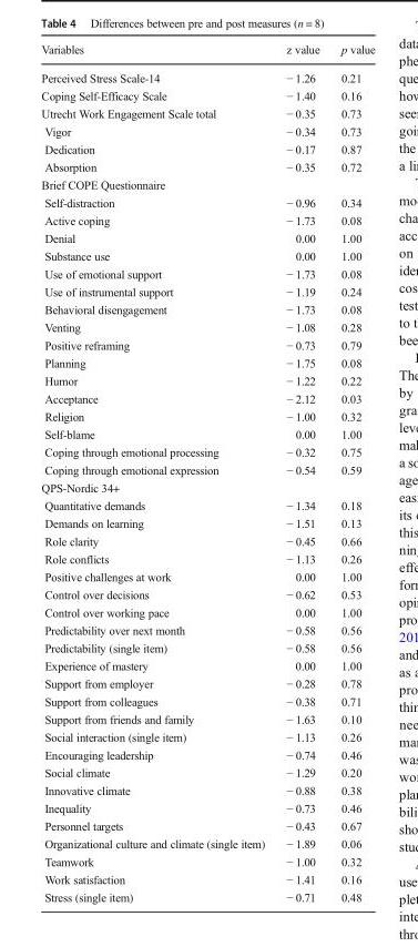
<table><thead><tr><td>Variables</td><td>z value</td><td>p value</td></tr></thead><tbody><tr><td>Perceived Stress Scale-14</td><td>− 1.26</td><td>0.21</td></tr><tr><td>Coping Self-Efficacy Scale</td><td>− 1.40</td><td>0.16</td></tr><tr><td>Utrecht Work Engagement Scale total</td><td>− 0.35</td><td>0.73</td></tr><tr><td>Vigor</td><td>− 0.34</td><td>0.73</td></tr><tr><td>Dedication</td><td>− 0.17</td><td>0.87</td></tr><tr><td>Absorption</td><td>− 0.35</td><td>0.72</td></tr><tr><td colspan="3">Brief COPE Questionnaire</td></tr><tr><td>Self-distraction</td><td>− 0.96</td><td>0.34</td></tr><tr><td>Active coping</td><td>− 1.73</td><td>0.08</td></tr><tr><td>Denial</td><td>0.00</td><td>1.00</td></tr><tr><td>Substance use</td><td>0.00</td><td>1.00</td></tr><tr><td>Use of emotional support</td><td>− 1.73</td><td>0.08</td></tr><tr><td>Use of instrumental support</td><td>− 1.19</td><td>0.24</td></tr><tr><td>Behavioral disengagement</td><td>− 1.73</td><td>0.08</td></tr><tr><td>Venting</td><td>− 1.08</td><td>0.28</td></tr><tr><td>Positive reframing</td><td>− 0.73</td><td>0.79</td></tr><tr><td>Planning</td><td>− 1.75</td><td>0.08</td></tr><tr><td>Humor</td><td>− 1.22</td><td>0.22</td></tr><tr><td>Acceptance</td><td>− 2.12</td><td>0.03</td></tr><tr><td>Religion</td><td>− 1.00</td><td>0.32</td></tr><tr><td>Self-blame</td><td>0.00</td><td>1.00</td></tr><tr><td>Coping through emotional processing</td><td>− 0.32</td><td>0.75</td></tr><tr><td>Coping through emotional expression</td><td>− 0.54</td><td>0.59</td></tr><tr><td colspan="3">QPS-Nordic 34+</td></tr><tr><td>Quantitative demands</td><td>− 1.34</td><td>0.18</td></tr><tr><td>Demands on learning</td><td>− 1.51</td><td>0.13</td></tr><tr><td>Role clarity</td><td>− 0.45</td><td>0.66</td></tr><tr><td>Role conflicts</td><td>− 1.13</td><td>0.26</td></tr><tr><td>Positive challenges at work</td><td>0.00</td><td>1.00</td></tr><tr><td>Control over decisions</td><td>− 0.62</td><td>0.53</td></tr><tr><td>Control over working pace</td><td>0.00</td><td>1.00</td></tr><tr><td>Predictability over next month</td><td>− 0.58</td><td>0.56</td></tr><tr><td>Predictability (single item)</td><td>− 0.58</td><td>0.56</td></tr><tr><td>Experience of mastery</td><td>0.00</td><td>1.00</td></tr><tr><td>Support from employer</td><td>− 0.28</td><td>0.78</td></tr><tr><td>Support from colleagues</td><td>− 0.38</td><td>0.71</td></tr><tr><td>Support from friends and family</td><td>− 1.63</td><td>0.10</td></tr><tr><td>Social interaction (single item)</td><td>− 1.13</td><td>0.26</td></tr><tr><td>Encouraging leadership</td><td>− 0.74</td><td>0.46</td></tr><tr><td>Social climate</td><td>− 1.29</td><td>0.20</td></tr><tr><td>Innovative climate</td><td>− 0.88</td><td>0.38</td></tr><tr><td>Inequality</td><td>− 0.73</td><td>0.46</td></tr><tr><td>Personnel targets</td><td>− 0.43</td><td>0.67</td></tr><tr><td>Organizational culture and climate (single item)</td><td>− 1.89</td><td>0.06</td></tr><tr><td>Teamwork</td><td>− 1.00</td><td>0.32</td></tr><tr><td>Work satisfaction</td><td>− 1.41</td><td>0.16</td></tr><tr><td>Stress (single item)</td><td>− 0.71</td><td>0.48</td></tr></tbody></table>